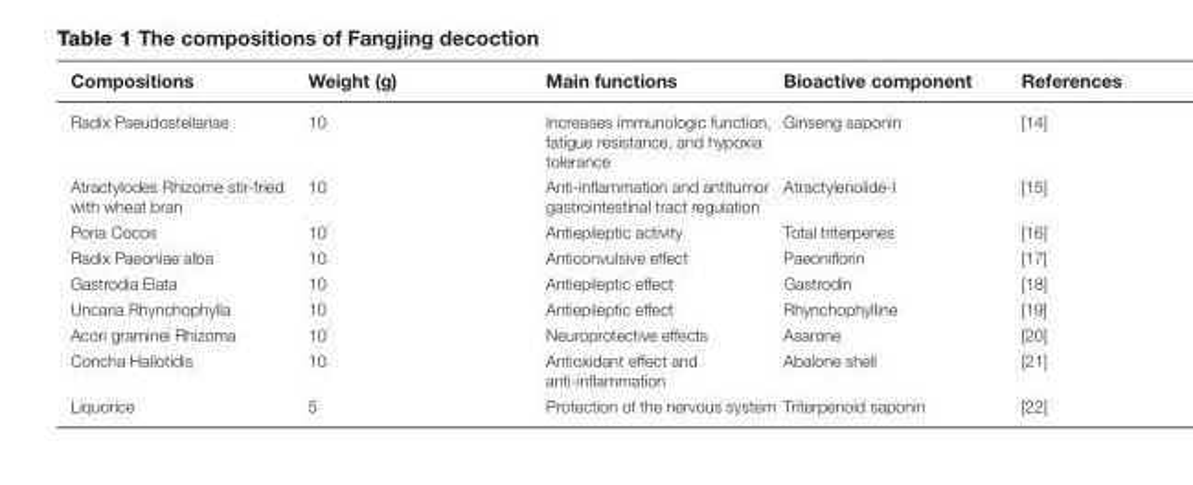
<table><thead><tr><td>Compositions</td><td>Weight (g)</td><td>Main functions</td><td>Bioactive component</td><td>References</td></tr></thead><tbody><tr><td>Radix Pseudostellariae</td><td>10</td><td>Increases immunologic function, fatigue resistance, and hypoxia tolerance</td><td>Ginseng saponin</td><td>[14]</td></tr><tr><td>Atractylodes Rhizome stir-fried with wheat bran</td><td>10</td><td>Anti-inflammation and antitumor gastrointestinal tract regulation</td><td>Atractylenolide-I</td><td>[15]</td></tr><tr><td>Poria Cocos</td><td>10</td><td>Antiepileptic activity</td><td>Total triterpenes</td><td>[16]</td></tr><tr><td>Radix Paeoniae alba</td><td>10</td><td>Anticonvulsive effect</td><td>Paeoniflorin</td><td>[17]</td></tr><tr><td>Gastrodia Elata</td><td>10</td><td>Antiepileptic effect</td><td>Gastrodin</td><td>[18]</td></tr><tr><td>Uncaria Rhynchophylla</td><td>10</td><td>Antiepileptic effect</td><td>Rhynchophylline</td><td>[19]</td></tr><tr><td>Acori graminei Rhizoma</td><td>10</td><td>Neuroprotective effects</td><td>Asarone</td><td>[20]</td></tr><tr><td>Concha Haliotidis</td><td>10</td><td>Antioxidant effect and anti-inflammation</td><td>Abalone shell</td><td>[21]</td></tr><tr><td>Liquorice</td><td>5</td><td>Protection of the nervous system</td><td>Triterpenoid saponin</td><td>[22]</td></tr></tbody></table>